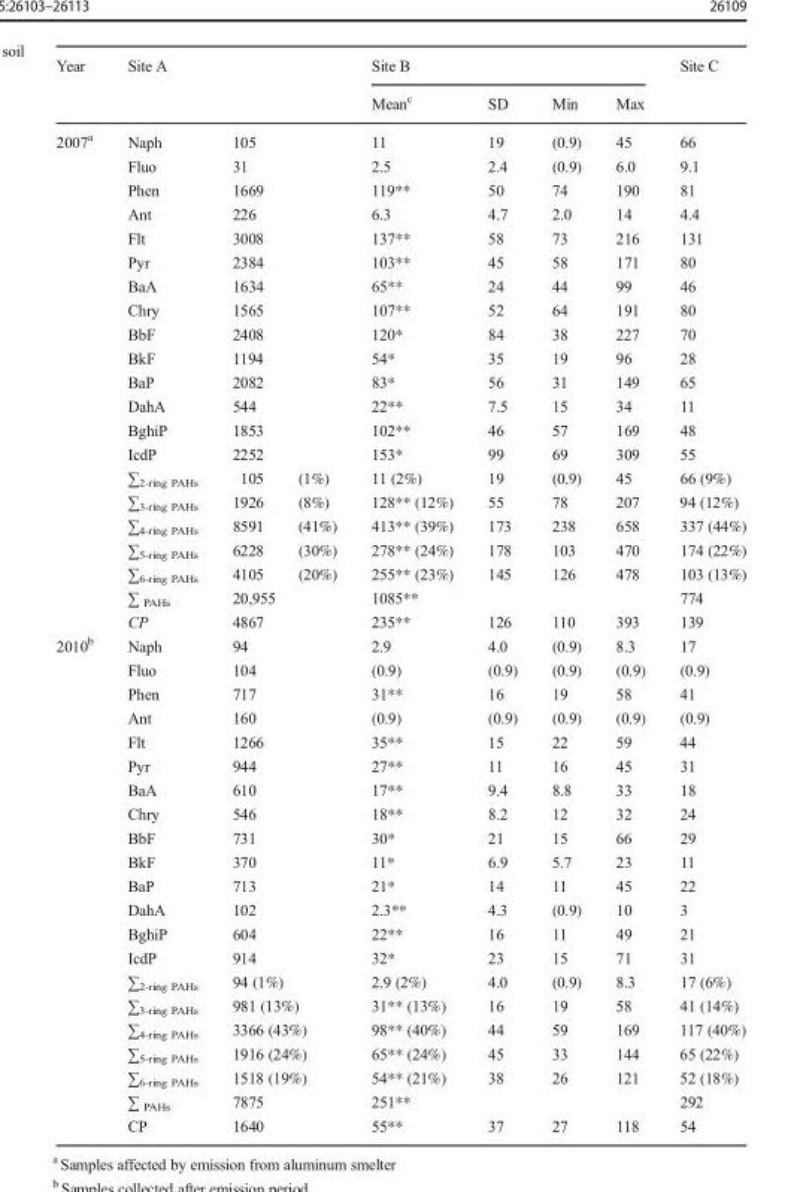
<table><thead><tr><td rowspan="2">Year</td><td rowspan="2" colspan="3">Site A</td><td colspan="4">Site B</td><td rowspan="2">Site C</td></tr><tr><td>Mean<sup>c</sup></td><td>SD</td><td>Min</td><td>Max</td></tr></thead><tbody><tr><td rowspan="21">2007<sup>a</sup></td><td>Naph</td><td colspan="2">105</td><td>11</td><td>19</td><td>(0.9)</td><td>45</td><td>66</td></tr><tr><td>Fluo</td><td colspan="2">31</td><td>2.5</td><td>2.4</td><td>(0.9)</td><td>6.0</td><td>9.1</td></tr><tr><td>Phen</td><td colspan="2">1669</td><td>119**</td><td>50</td><td>74</td><td>190</td><td>81</td></tr><tr><td>Ant</td><td colspan="2">226</td><td>6.3</td><td>4.7</td><td>2.0</td><td>14</td><td>4.4</td></tr><tr><td>Flt</td><td colspan="2">3008</td><td>137**</td><td>58</td><td>73</td><td>216</td><td>131</td></tr><tr><td>Pyr</td><td colspan="2">2384</td><td>103**</td><td>45</td><td>58</td><td>171</td><td>80</td></tr><tr><td>BaA</td><td colspan="2">1634</td><td>65**</td><td>24</td><td>44</td><td>99</td><td>46</td></tr><tr><td>Chry</td><td colspan="2">1565</td><td>107**</td><td>52</td><td>64</td><td>191</td><td>80</td></tr><tr><td>BbF</td><td colspan="2">2408</td><td>120*</td><td>84</td><td>38</td><td>227</td><td>70</td></tr><tr><td>BkF</td><td colspan="2">1194</td><td>54*</td><td>35</td><td>19</td><td>96</td><td>28</td></tr><tr><td>BaP</td><td colspan="2">2082</td><td>83*</td><td>56</td><td>31</td><td>149</td><td>65</td></tr><tr><td>DahA</td><td colspan="2">544</td><td>22**</td><td>7.5</td><td>15</td><td>34</td><td>11</td></tr><tr><td>BghiP</td><td colspan="2">1853</td><td>102**</td><td>46</td><td>57</td><td>169</td><td>48</td></tr><tr><td>IcdP</td><td colspan="2">2252</td><td>153*</td><td>99</td><td>69</td><td>309</td><td>55</td></tr><tr><td>∑<sub>2-ring PAHs</sub></td><td>105</td><td>(1%)</td><td>11 (2%)</td><td>19</td><td>(0.9)</td><td>45</td><td>66 (9%)</td></tr><tr><td>∑<sub>3-ring PAHs</sub></td><td>1926</td><td>(8%)</td><td>128** (12%)</td><td>55</td><td>78</td><td>207</td><td>94 (12%)</td></tr><tr><td>∑<sub>4-ring PAHs</sub></td><td>8591</td><td>(41%)</td><td>413** (39%)</td><td>173</td><td>238</td><td>658</td><td>337 (44%)</td></tr><tr><td>∑<sub>5-ring PAHs</sub></td><td>6228</td><td>(30%)</td><td>278** (24%)</td><td>178</td><td>103</td><td>470</td><td>174 (22%)</td></tr><tr><td>∑<sub>6-ring PAHs</sub></td><td>4105</td><td>(20%)</td><td>255** (23%)</td><td>145</td><td>126</td><td>478</td><td>103 (13%)</td></tr><tr><td>∑ <sub>PAHs</sub></td><td colspan="2">20,955</td><td>1085**</td><td></td><td></td><td></td><td>774</td></tr><tr><td>CP</td><td colspan="2">4867</td><td>235**</td><td>126</td><td>110</td><td>393</td><td>139</td></tr><tr><td rowspan="21">2010<sup>b</sup></td><td>Naph</td><td colspan="2">94</td><td>2.9</td><td>4.0</td><td>(0.9)</td><td>8.3</td><td>17</td></tr><tr><td>Fluo</td><td colspan="2">104</td><td>(0.9)</td><td>(0.9)</td><td>(0.9)</td><td>(0.9)</td><td>(0.9)</td></tr><tr><td>Phen</td><td colspan="2">717</td><td>31**</td><td>16</td><td>19</td><td>58</td><td>41</td></tr><tr><td>Ant</td><td colspan="2">160</td><td>(0.9)</td><td>(0.9)</td><td>(0.9)</td><td>(0.9)</td><td>(0.9)</td></tr><tr><td>Flt</td><td colspan="2">1266</td><td>35**</td><td>15</td><td>22</td><td>59</td><td>44</td></tr><tr><td>Pyr</td><td colspan="2">944</td><td>27**</td><td>11</td><td>16</td><td>45</td><td>31</td></tr><tr><td>BaA</td><td colspan="2">610</td><td>17**</td><td>9.4</td><td>8.8</td><td>33</td><td>18</td></tr><tr><td>Chry</td><td colspan="2">546</td><td>18**</td><td>8.2</td><td>12</td><td>32</td><td>24</td></tr><tr><td>BbF</td><td colspan="2">731</td><td>30*</td><td>21</td><td>15</td><td>66</td><td>29</td></tr><tr><td>BkF</td><td colspan="2">370</td><td>11*</td><td>6.9</td><td>5.7</td><td>23</td><td>11</td></tr><tr><td>BaP</td><td colspan="2">713</td><td>21*</td><td>14</td><td>11</td><td>45</td><td>22</td></tr><tr><td>DahA</td><td colspan="2">102</td><td>2.3**</td><td>4.3</td><td>(0.9)</td><td>10</td><td>3</td></tr><tr><td>BghiP</td><td colspan="2">604</td><td>22**</td><td>16</td><td>11</td><td>49</td><td>21</td></tr><tr><td>IcdP</td><td colspan="2">914</td><td>32*</td><td>23</td><td>15</td><td>71</td><td>31</td></tr><tr><td>∑<sub>2-ring PAHs</sub></td><td colspan="2">94 (1%)</td><td>2.9 (2%)</td><td>4.0</td><td>(0.9)</td><td>8.3</td><td>17 (6%)</td></tr><tr><td>∑<sub>3-ring PAHs</sub></td><td colspan="2">981 (13%)</td><td>31** (13%)</td><td>16</td><td>19</td><td>58</td><td>41 (14%)</td></tr><tr><td>∑<sub>4-ring PAHs</sub></td><td colspan="2">3366 (43%)</td><td>98** (40%)</td><td>44</td><td>59</td><td>169</td><td>117 (40%)</td></tr><tr><td>∑<sub>5-ring PAHs</sub></td><td colspan="2">1916 (24%)</td><td>65** (24%)</td><td>45</td><td>33</td><td>144</td><td>65 (22%)</td></tr><tr><td>∑<sub>6-ring PAHs</sub></td><td colspan="2">1518 (19%)</td><td>54** (21%)</td><td>38</td><td>26</td><td>121</td><td>52 (18%)</td></tr><tr><td>∑ <sub>PAHs</sub></td><td colspan="2">7875</td><td>251**</td><td></td><td></td><td></td><td>292</td></tr><tr><td>CP</td><td colspan="2">1640</td><td>55**</td><td>37</td><td>27</td><td>118</td><td>54</td></tr></tbody></table>